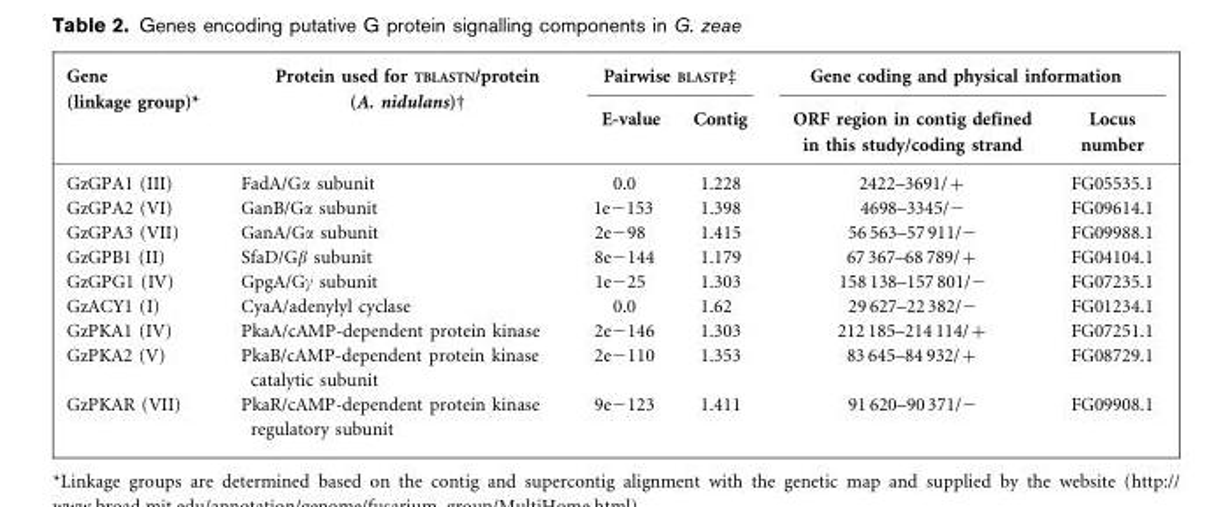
<table><thead><tr><td rowspan="2">Gene (linkage group)*</td><td rowspan="2">Protein used for TBLASTN/protein (A. nidulans)†</td><td colspan="2">Pairwise BLASTP‡</td><td colspan="2">Gene coding and physical information</td></tr><tr><td>E-value</td><td>Contig</td><td>ORF region in contig defined in this study/coding strand</td><td>Locus number</td></tr></thead><tbody><tr><td>GzGPA1 (III)</td><td>FadA/Gα subunit</td><td>0.0</td><td>1.228</td><td>2422–3691/+</td><td>FG05535.1</td></tr><tr><td>GzGPA2 (VI)</td><td>GanB/Gα subunit</td><td>1e−153</td><td>1.398</td><td>4698–3345/−</td><td>FG09614.1</td></tr><tr><td>GzGPA3 (VII)</td><td>GanA/Gα subunit</td><td>2e−98</td><td>1.415</td><td>56 563–57 911/−</td><td>FG09988.1</td></tr><tr><td>GzGPB1 (II)</td><td>SfaD/Gβ subunit</td><td>8e−144</td><td>1.179</td><td>67 367–68 789/+</td><td>FG04104.1</td></tr><tr><td>GzGPG1 (IV)</td><td>GpgA/Gγ subunit</td><td>1e−25</td><td>1.303</td><td>158 138–157 801/−</td><td>FG07235.1</td></tr><tr><td>GzACY1 (I)</td><td>CyaA/adenylyl cyclase</td><td>0.0</td><td>1.62</td><td>29 627–22 382/−</td><td>FG01234.1</td></tr><tr><td>GzPKA1 (IV)</td><td>PkaA/cAMP-dependent protein kinase</td><td>2e−146</td><td>1.303</td><td>212 185–214 114/+</td><td>FG07251.1</td></tr><tr><td>GzPKA2 (V)</td><td>PkaB/cAMP-dependent protein kinase catalytic subunit</td><td>2e−110</td><td>1.353</td><td>83 645–84 932/+</td><td>FG08729.1</td></tr><tr><td>GzPKAR (VII)</td><td>PkaR/cAMP-dependent protein kinase regulatory subunit</td><td>9e−123</td><td>1.411</td><td>91 620–90 371/−</td><td>FG09908.1</td></tr></tbody></table>